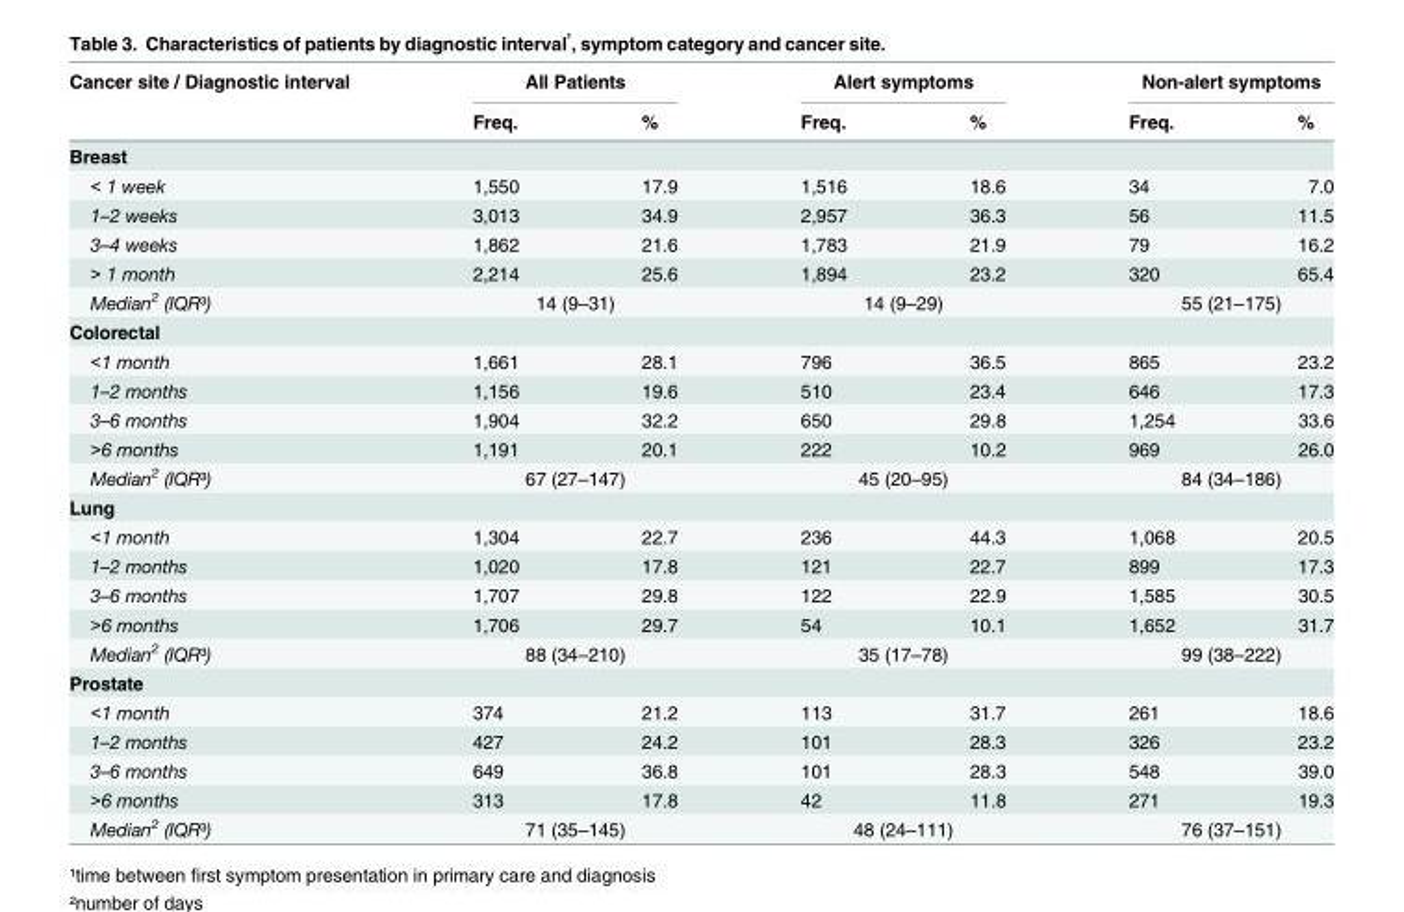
<table><thead><tr><td rowspan="2">Cancer site / Diagnostic interval</td><td colspan="2">All Patients</td><td colspan="2">Alert symptoms</td><td colspan="2">Non-alert symptoms</td></tr><tr><td>Freq.</td><td>%</td><td>Freq.</td><td>%</td><td>Freq.</td><td>%</td></tr></thead><tbody><tr><td colspan="7">Breast</td></tr><tr><td>&lt; 1 week</td><td>1,550</td><td>17.9</td><td>1,516</td><td>18.6</td><td>34</td><td>7.0</td></tr><tr><td>1–2 weeks</td><td>3,013</td><td>34.9</td><td>2,957</td><td>36.3</td><td>56</td><td>11.5</td></tr><tr><td>3–4 weeks</td><td>1,862</td><td>21.6</td><td>1,783</td><td>21.9</td><td>79</td><td>16.2</td></tr><tr><td>&gt; 1 month</td><td>2,214</td><td>25.6</td><td>1,894</td><td>23.2</td><td>320</td><td>65.4</td></tr><tr><td>Median<sup>2</sup> (IQR³)</td><td colspan="2">14 (9–31)</td><td colspan="2">14 (9–29)</td><td colspan="2">55 (21–175)</td></tr><tr><td colspan="7">Colorectal</td></tr><tr><td>&lt;1 month</td><td>1,661</td><td>28.1</td><td>796</td><td>36.5</td><td>865</td><td>23.2</td></tr><tr><td>1–2 months</td><td>1,156</td><td>19.6</td><td>510</td><td>23.4</td><td>646</td><td>17.3</td></tr><tr><td>3–6 months</td><td>1,904</td><td>32.2</td><td>650</td><td>29.8</td><td>1,254</td><td>33.6</td></tr><tr><td>&gt;6 months</td><td>1,191</td><td>20.1</td><td>222</td><td>10.2</td><td>969</td><td>26.0</td></tr><tr><td>Median<sup>2</sup> (IQR³)</td><td colspan="2">67 (27–147)</td><td colspan="2">45 (20–95)</td><td colspan="2">84 (34–186)</td></tr><tr><td colspan="7">Lung</td></tr><tr><td>&lt;1 month</td><td>1,304</td><td>22.7</td><td>236</td><td>44.3</td><td>1,068</td><td>20.5</td></tr><tr><td>1–2 months</td><td>1,020</td><td>17.8</td><td>121</td><td>22.7</td><td>899</td><td>17.3</td></tr><tr><td>3–6 months</td><td>1,707</td><td>29.8</td><td>122</td><td>22.9</td><td>1,585</td><td>30.5</td></tr><tr><td>&gt;6 months</td><td>1,706</td><td>29.7</td><td>54</td><td>10.1</td><td>1,652</td><td>31.7</td></tr><tr><td>Median<sup>2</sup> (IQR³)</td><td colspan="2">88 (34–210)</td><td colspan="2">35 (17–78)</td><td colspan="2">99 (38–222)</td></tr><tr><td colspan="7">Prostate</td></tr><tr><td>&lt;1 month</td><td>374</td><td>21.2</td><td>113</td><td>31.7</td><td>261</td><td>18.6</td></tr><tr><td>1–2 months</td><td>427</td><td>24.2</td><td>101</td><td>28.3</td><td>326</td><td>23.2</td></tr><tr><td>3–6 months</td><td>649</td><td>36.8</td><td>101</td><td>28.3</td><td>548</td><td>39.0</td></tr><tr><td>&gt;6 months</td><td>313</td><td>17.8</td><td>42</td><td>11.8</td><td>271</td><td>19.3</td></tr><tr><td>Median<sup>2</sup> (IQR³)</td><td colspan="2">71 (35–145)</td><td colspan="2">48 (24–111)</td><td colspan="2">76 (37–151)</td></tr></tbody></table>